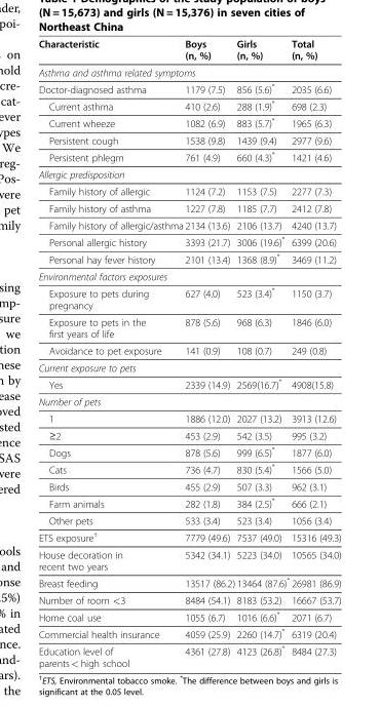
<table><thead><tr><td>Characteristic</td><td>Boys (n, %)</td><td>Girls (n, %)</td><td>Total (n, %)</td></tr></thead><tbody><tr><td colspan="4">Asthma and asthma related symptoms</td></tr><tr><td>Doctor-diagnosed asthma</td><td>1179 (7.5)</td><td>856 (5.6)*</td><td>2035 (6.6)</td></tr><tr><td>Current asthma</td><td>410 (2.6)</td><td>288 (1.9)*</td><td>698 (2.3)</td></tr><tr><td>Current wheeze</td><td>1082 (6.9)</td><td>883 (5.7)*</td><td>1965 (6.3)</td></tr><tr><td>Persistent cough</td><td>1538 (9.8)</td><td>1439 (9.4)</td><td>2977 (9.6)</td></tr><tr><td>Persistent phlegm</td><td>761 (4.9)</td><td>660 (4.3)*</td><td>1421 (4.6)</td></tr><tr><td colspan="4">Allergic predisposition</td></tr><tr><td>Family history of allergic</td><td>1124 (7.2)</td><td>1153 (7.5)</td><td>2277 (7.3)</td></tr><tr><td>Family history of asthma</td><td>1227 (7.8)</td><td>1185 (7.7)</td><td>2412 (7.8)</td></tr><tr><td>Family history of allergic/asthma</td><td>2134 (13.6)</td><td>2106 (13.7)</td><td>4240 (13.7)</td></tr><tr><td>Personal allergic history</td><td>3393 (21.7)</td><td>3006 (19.6)*</td><td>6399 (20.6)</td></tr><tr><td>Personal hay fever history</td><td>2101 (13.4)</td><td>1368 (8.9)*</td><td>3469 (11.2)</td></tr><tr><td colspan="4">Environmental factors exposures</td></tr><tr><td>Exposure to pets during pregnancy</td><td>627 (4.0)</td><td>523 (3.4)*</td><td>1150 (3.7)</td></tr><tr><td>Exposure to pets in the first years of life</td><td>878 (5.6)</td><td>968 (6.3)</td><td>1846 (6.0)</td></tr><tr><td>Avoidance to pet exposure</td><td>141 (0.9)</td><td>108 (0.7)</td><td>249 (0.8)</td></tr><tr><td colspan="4">Current exposure to pets</td></tr><tr><td>Yes</td><td>2339 (14.9)</td><td>2569(16.7)*</td><td>4908(15.8)</td></tr><tr><td colspan="4">Number of pets</td></tr><tr><td>1</td><td>1886 (12.0)</td><td>2027 (13.2)</td><td>3913 (12.6)</td></tr><tr><td>≥2</td><td>453 (2.9)</td><td>542 (3.5)</td><td>995 (3.2)</td></tr><tr><td>Dogs</td><td>878 (5.6)</td><td>999 (6.5)*</td><td>1877 (6.0)</td></tr><tr><td>Cats</td><td>736 (4.7)</td><td>830 (5.4)*</td><td>1566 (5.0)</td></tr><tr><td>Birds</td><td>455 (2.9)</td><td>507 (3.3)</td><td>962 (3.1)</td></tr><tr><td>Farm animals</td><td>282 (1.8)</td><td>384 (2.5)*</td><td>666 (2.1)</td></tr><tr><td>Other pets</td><td>533 (3.4)</td><td>523 (3.4)</td><td>1056 (3.4)</td></tr><tr><td>ETS exposure<sup>†</sup></td><td>7779 (49.6)</td><td>7537 (49.0)</td><td>15316 (49.3)</td></tr><tr><td>House decoration in recent two years</td><td>5342 (34.1)</td><td>5223 (34.0)</td><td>10565 (34.0)</td></tr><tr><td>Breast feeding</td><td>13517 (86.2)</td><td>13464 (87.6)*</td><td>26981 (86.9)</td></tr><tr><td>Number of room &lt;3</td><td>8484 (54.1)</td><td>8183 (53.2)</td><td>16667 (53.7)</td></tr><tr><td>Home coal use</td><td>1055 (6.7)</td><td>1016 (6.6)*</td><td>2071 (6.7)</td></tr><tr><td>Commercial health insurance</td><td>4059 (25.9)</td><td>2260 (14.7)*</td><td>6319 (20.4)</td></tr><tr><td>Education level of parents &lt; high school</td><td>4361 (27.8)</td><td>4123 (26.8)*</td><td>8484 (27.3)</td></tr></tbody></table>